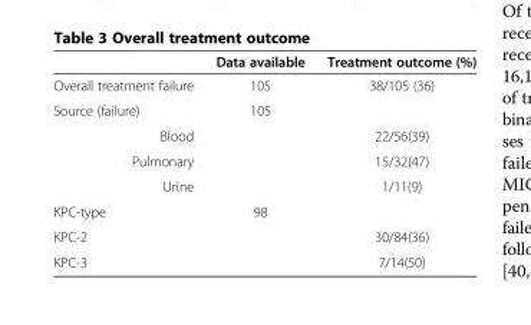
<table><thead><tr><td></td><td>Data available</td><td>Treatment outcome (%)</td></tr></thead><tbody><tr><td>Overall treatment failure</td><td>105</td><td>38/105 (36)</td></tr><tr><td>Source (failure)</td><td>105</td><td></td></tr><tr><td>Blood</td><td></td><td>22/56(39)</td></tr><tr><td>Pulmonary</td><td></td><td>15/32(47)</td></tr><tr><td>Urine</td><td></td><td>1/11(9)</td></tr><tr><td>KPC-type</td><td>98</td><td></td></tr><tr><td>KPC-2</td><td></td><td>30/84(36)</td></tr><tr><td>KPC-3</td><td></td><td>7/14(50)</td></tr></tbody></table>